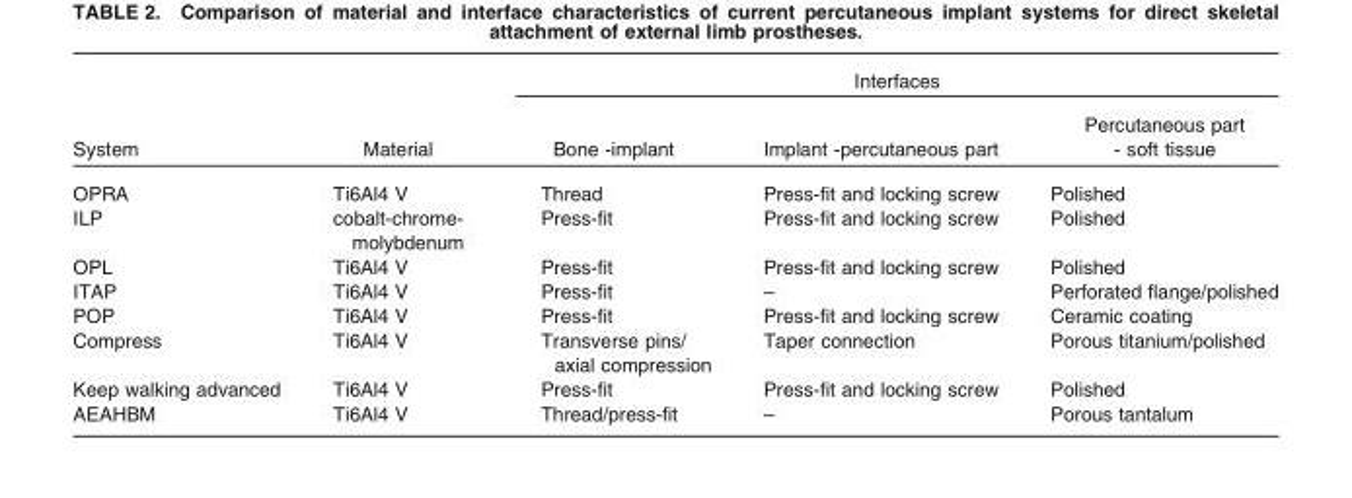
<table><thead><tr><td rowspan="2">System</td><td rowspan="2">Material</td><td colspan="3">Interfaces</td></tr><tr><td>Bone -implant</td><td>Implant -percutaneous part</td><td>Percutaneous part - soft tissue</td></tr></thead><tbody><tr><td>OPRA</td><td>Ti6Al4 V</td><td>Thread</td><td>Press-fit and locking screw</td><td>Polished</td></tr><tr><td>ILP</td><td>cobalt-chrome- molybdenum</td><td>Press-fit</td><td>Press-fit and locking screw</td><td>Polished</td></tr><tr><td>OPL</td><td>Ti6Al4 V</td><td>Press-fit</td><td>Press-fit and locking screw</td><td>Polished</td></tr><tr><td>ITAP</td><td>Ti6Al4 V</td><td>Press-fit</td><td>–</td><td>Perforated flange/polished</td></tr><tr><td>POP</td><td>Ti6Al4 V</td><td>Press-fit</td><td>Press-fit and locking screw</td><td>Ceramic coating</td></tr><tr><td>Compress</td><td>Ti6Al4 V</td><td>Transverse pins/ axial compression</td><td>Taper connection</td><td>Porous titanium/polished</td></tr><tr><td>Keep walking advanced</td><td>Ti6Al4 V</td><td>Press-fit</td><td>Press-fit and locking screw</td><td>Polished</td></tr><tr><td>AEAHBM</td><td>Ti6Al4 V</td><td>Thread/press-fit</td><td>–</td><td>Porous tantalum</td></tr></tbody></table>